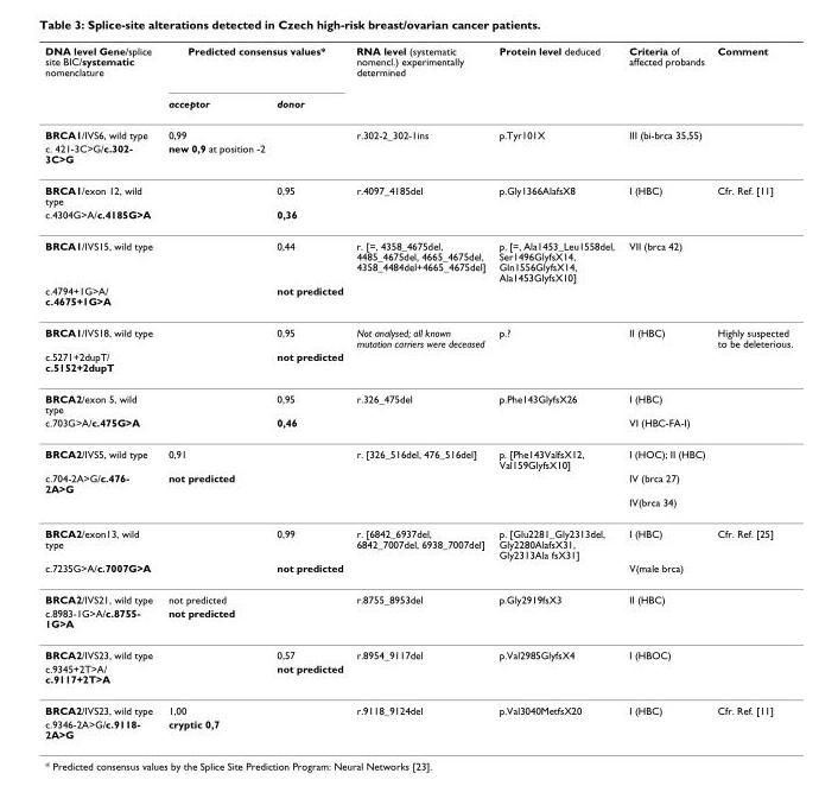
<table><thead><tr><td rowspan="2">DNA level Gene/splice site BIC/systematic nomenclature</td><td colspan="2">Predicted consensus values*</td><td rowspan="2">RNA level (systematic nomencl.) experimentally determined</td><td rowspan="2">Protein level deduced</td><td rowspan="2">Criteria of affected probands</td><td rowspan="2">Comment</td></tr><tr><td>acceptor</td><td>donor</td></tr></thead><tbody><tr><td>BRCA1/IVS6, wild type</td><td>0,99</td><td></td><td>r.302-2_302-1ins</td><td>p.Tyr101X</td><td>III (bi-brca 35,55)</td><td></td></tr><tr><td>c. 421-3C&gt;G/c.302- 3C&gt;G</td><td>new 0,9 at position -2</td><td></td><td></td><td></td><td></td><td></td></tr><tr><td>BRCA1/exon 12, wild type</td><td></td><td>0,95</td><td>r.4097_4185del</td><td>p.Gly1366AlafsX8</td><td>I (HBC)</td><td>Cfr. Ref. [11]</td></tr><tr><td>c.4304G&gt;A/c.4185G&gt;A</td><td></td><td>0,36</td><td></td><td></td><td></td><td></td></tr><tr><td>BRCA1/IVS15, wild type</td><td></td><td>0,44</td><td>r. [=, 4358_4675del, 4485_4675del, 4665_4675del, 4358_4484del+4665_4675del]</td><td>p. [=, Ala1453_Leu1558del, Ser1496GlyfsX14, Gln1556GlyfsX14, Ala1453GlyfsX10]</td><td>VII (brca 42)</td><td></td></tr><tr><td>c.4794+1G&gt;A/ c.4675+1G&gt;A</td><td></td><td>not predicted</td><td></td><td></td><td></td><td></td></tr><tr><td>BRCA1/IVS18, wild type</td><td></td><td>0,95</td><td>Not analysed; all known mutation carriers were deceased</td><td>p.?</td><td>II (HBC)</td><td>Highly suspected to be deleterious.</td></tr><tr><td>c.5271+2dupT/ c.5152+2dupT</td><td></td><td>not predicted</td><td></td><td></td><td></td><td></td></tr><tr><td>BRCA2/exon 5, wild type</td><td></td><td>0,95</td><td>r.326_475del</td><td>p.Phe143GlyfsX26</td><td>I (HBC)</td><td></td></tr><tr><td>c.703G&gt;A/c.475G&gt;A</td><td></td><td>0,46</td><td></td><td></td><td>VI (HBC-FA-I)</td><td></td></tr><tr><td>BRCA2/IVS5, wild type</td><td>0,91</td><td></td><td>r. [326_516del, 476_516del]</td><td>p. [Phe143ValfsX12, Val159GlyfsX10]</td><td>I (HOC); II (HBC)</td><td></td></tr><tr><td rowspan="2">c.704-2A&gt;G/c.476- 2A&gt;G</td><td>not predicted</td><td></td><td></td><td></td><td>IV (brca 27)</td><td></td></tr><tr><td></td><td></td><td></td><td></td><td>IV(brca 34)</td><td></td></tr><tr><td>BRCA2/exon13, wild type</td><td></td><td>0,99</td><td>r. [6842_6937del, 6842_7007del, 6938_7007del]</td><td>p. [Glu2281_Gly2313del, Gly2280AlafsX31, Gly2313Ala fsX31]</td><td>I (HBC)</td><td>Cfr. Ref. [25]</td></tr><tr><td>c.7235G&gt;A/c.7007G&gt;A</td><td></td><td>not predicted</td><td></td><td></td><td>V(male brca)</td><td></td></tr><tr><td>BRCA2/IVS21, wild type</td><td>not predicted</td><td></td><td>r.8755_8953del</td><td>p.Gly2919fsX3</td><td>II (HBC)</td><td></td></tr><tr><td>c.8983-1G&gt;A/c.8755- 1G&gt;A</td><td>not predicted</td><td></td><td></td><td></td><td></td><td></td></tr><tr><td>BRCA2/IVS23, wild type</td><td></td><td>0,57</td><td>r.8954_9117del</td><td>p.Val2985GlyfsX4</td><td>I (HBOC)</td><td></td></tr><tr><td>c.9345+2T&gt;A/ c.9117+2T&gt;A</td><td></td><td>not predicted</td><td></td><td></td><td></td><td></td></tr><tr><td>BRCA2/IVS23, wild type</td><td>1,00</td><td></td><td>r.9118_9124del</td><td>p.Val3040MetfsX20</td><td>I (HBC)</td><td>Cfr. Ref. [11]</td></tr><tr><td>c.9346-2A&gt;G/c.9118- 2A&gt;G</td><td>cryptic 0,7</td><td></td><td></td><td></td><td></td><td></td></tr></tbody></table>